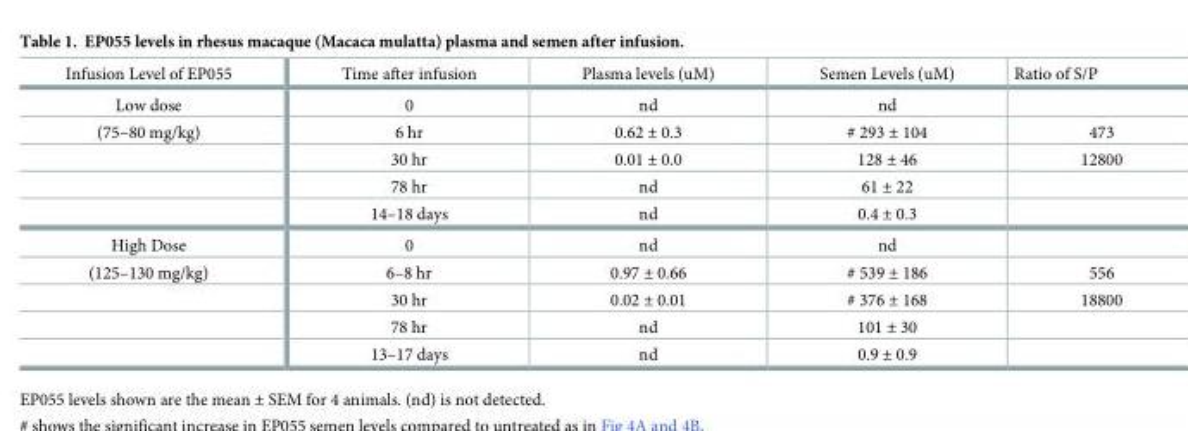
<table><tbody><tr><td>Infusion Level of EP055</td><td>Time after infusion</td><td>Plasma levels (uM)</td><td>Semen Levels (uM)</td><td>Ratio of S/P</td></tr><tr><td>Low dose</td><td>0</td><td>nd</td><td>nd</td><td></td></tr><tr><td rowspan="4">(75–80 mg/kg)</td><td>6 hr</td><td>0.62 ± 0.3</td><td># 293 ± 104</td><td>473</td></tr><tr><td>30 hr</td><td>0.01 ± 0.0</td><td>128 ± 46</td><td>12800</td></tr><tr><td>78 hr</td><td>nd</td><td>61 ± 22</td><td></td></tr><tr><td>14–18 days</td><td>nd</td><td>0.4 ± 0.3</td><td></td></tr><tr><td>High Dose</td><td>0</td><td>nd</td><td>nd</td><td></td></tr><tr><td rowspan="4">(125–130 mg/kg)</td><td>6–8 hr</td><td>0.97 ± 0.66</td><td># 539 ± 186</td><td>556</td></tr><tr><td>30 hr</td><td>0.02 ± 0.01</td><td># 376 ± 168</td><td>18800</td></tr><tr><td>78 hr</td><td>nd</td><td>101 ± 30</td><td></td></tr><tr><td>13–17 days</td><td>nd</td><td>0.9 ± 0.9</td><td></td></tr></tbody></table>